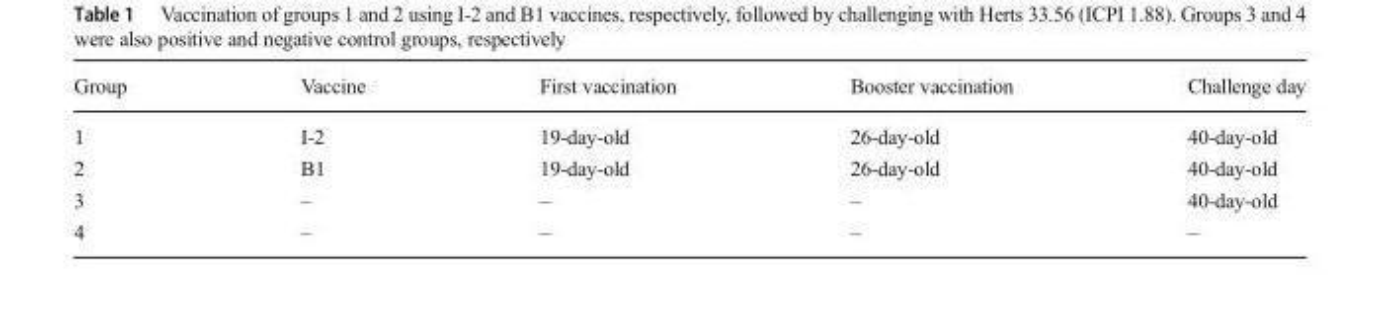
<table><thead><tr><td>Group</td><td>Vaccine</td><td>First vaccination</td><td>Booster vaccination</td><td>Challenge day</td></tr></thead><tbody><tr><td>1</td><td>I-2</td><td>19-day-old</td><td>26-day-old</td><td>40-day-old</td></tr><tr><td>2</td><td>B1</td><td>19-day-old</td><td>26-day-old</td><td>40-day-old</td></tr><tr><td>3</td><td>–</td><td>–</td><td>–</td><td>40-day-old</td></tr><tr><td>4</td><td>–</td><td>–</td><td>–</td><td>–</td></tr></tbody></table>